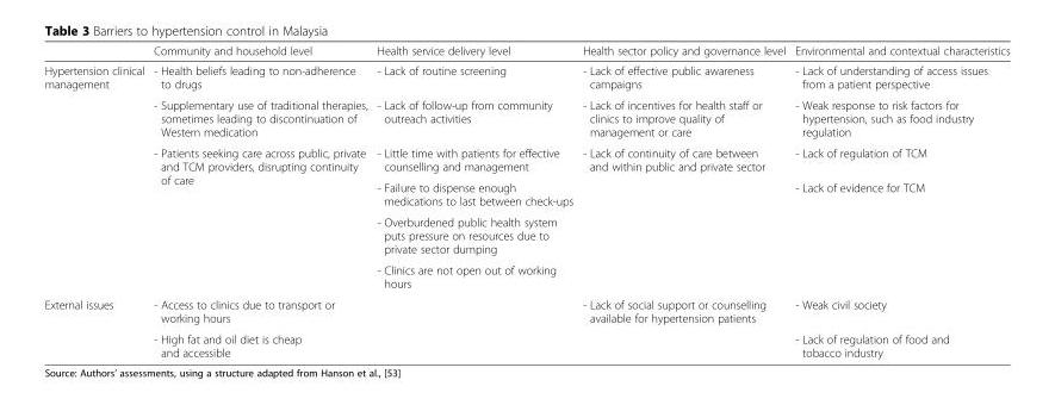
<table><thead><tr><td></td><td>Community and household level</td><td>Health service delivery level</td><td>Health sector policy and governance level</td><td>Environmental and contextual characteristics</td></tr></thead><tbody><tr><td rowspan="6">Hypertension clinical management</td><td>- Health beliefs leading to non-adherence to drugs</td><td>- Lack of routine screening</td><td>- Lack of effective public awareness campaigns</td><td>- Lack of understanding of access issues from a patient perspective</td></tr><tr><td>- Supplementary use of traditional therapies, sometimes leading to discontinuation of Western medication</td><td>- Lack of follow-up from community outreach activities</td><td>- Lack of incentives for health staff or clinics to improve quality of management or care</td><td>- Weak response to risk factors for hypertension, such as food industry regulation</td></tr><tr><td rowspan="4">- Patients seeking care across public, private and TCM providers, disrupting continuity of care</td><td>- Little time with patients for effective counselling and management</td><td>- Lack of continuity of care between and within public and private sector</td><td>- Lack of regulation of TCM</td></tr><tr><td>- Failure to dispense enough medications to last between check-ups</td><td rowspan="3"></td><td rowspan="3">- Lack of evidence for TCM</td></tr><tr><td>- Overburdened public health system puts pressure on resources due to private sector dumping</td></tr><tr><td>- Clinics are not open out of working hours</td></tr><tr><td rowspan="2">External issues</td><td>- Access to clinics due to transport or working hours</td><td rowspan="2"></td><td>- Lack of social support or counselling available for hypertension patients</td><td>- Weak civil society</td></tr><tr><td>- High fat and oil diet is cheap and accessible</td><td></td><td>- Lack of regulation of food and tobacco industry</td></tr></tbody></table>